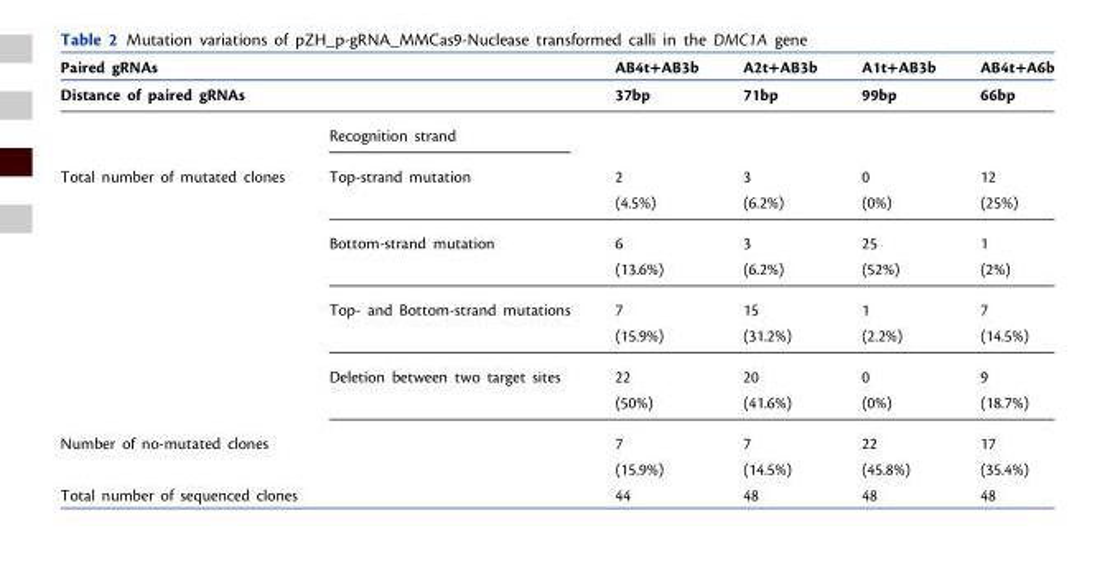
<table><thead><tr><td rowspan="2" colspan="2">Paired gRNAs Distance of paired gRNAs</td><td rowspan="2">AB4t+AB3b 37bp</td><td rowspan="2">A2t+AB3b 71bp</td><td rowspan="2">A1t+AB3b 99bp</td><td rowspan="2">AB4t+A6b 66bp</td></tr><tr></tr><tr><td></td><td>Recognition strand</td><td colspan="4"></td></tr></thead><tbody><tr><td rowspan="8">Total number of mutated clones</td><td>Top-strand mutation</td><td>2</td><td>3</td><td>0</td><td>12</td></tr><tr><td></td><td>(4.5%)</td><td>(6.2%)</td><td>(0%)</td><td>(25%)</td></tr><tr><td>Bottom-strand mutation</td><td>6</td><td>3</td><td>25</td><td>1</td></tr><tr><td></td><td>(13.6%)</td><td>(6.2%)</td><td>(52%)</td><td>(2%)</td></tr><tr><td>Top- and Bottom-strand mutations</td><td>7</td><td>15</td><td>1</td><td>7</td></tr><tr><td></td><td>(15.9%)</td><td>(31.2%)</td><td>(2.2%)</td><td>(14.5%)</td></tr><tr><td>Deletion between two target sites</td><td>22</td><td>20</td><td>0</td><td>9</td></tr><tr><td></td><td>(50%)</td><td>(41.6%)</td><td>(0%)</td><td>(18.7%)</td></tr><tr><td colspan="2">Number of no-mutated clones</td><td>7</td><td>7</td><td>22</td><td>17</td></tr><tr><td></td><td></td><td>(15.9%)</td><td>(14.5%)</td><td>(45.8%)</td><td>(35.4%)</td></tr><tr><td colspan="2">Total number of sequenced clones</td><td>44</td><td>48</td><td>48</td><td>48</td></tr></tbody></table>